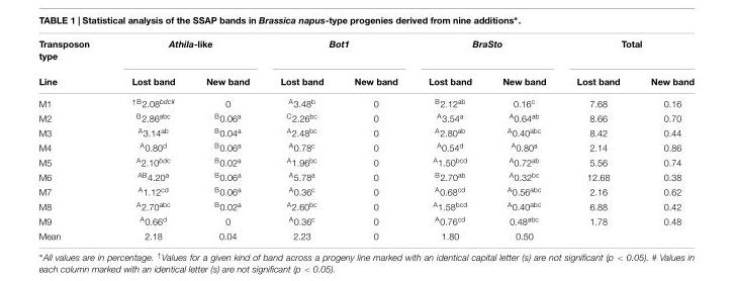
<table><thead><tr><td rowspan="2">Transposon type Line</td><td colspan="2">Athila-like</td><td colspan="2">Bot1</td><td colspan="2">BraSto</td><td colspan="2">Total</td></tr><tr><td>Lost band</td><td>New band</td><td>Lost band</td><td>New band</td><td>Lost band</td><td>New band</td><td>Lost band</td><td>New band</td></tr></thead><tbody><tr><td>M1</td><td>↑<sup>B</sup>2.08<sup>bdc#</sup></td><td>0</td><td><sup>A</sup>3.48<sup>b</sup></td><td>0</td><td><sup>B</sup>2.12<sup>ab</sup></td><td>0.16<sup>c</sup></td><td>7.68</td><td>0.16</td></tr><tr><td>M2</td><td><sup>B</sup>2.86<sup>abc</sup></td><td><sup>B</sup>0.06<sup>a</sup></td><td><sup>C</sup>2.26<sup>bc</sup></td><td>0</td><td><sup>A</sup>3.54<sup>a</sup></td><td><sup>A</sup>0.64<sup>ab</sup></td><td>8.66</td><td>0.70</td></tr><tr><td>M3</td><td><sup>A</sup>3.14<sup>ab</sup></td><td><sup>B</sup>0.04<sup>a</sup></td><td><sup>A</sup>2.48<sup>bc</sup></td><td>0</td><td><sup>A</sup>2.80<sup>ab</sup></td><td><sup>A</sup>0.40<sup>abc</sup></td><td>8.42</td><td>0.44</td></tr><tr><td>M4</td><td><sup>A</sup>0.80<sup>d</sup></td><td><sup>B</sup>0.06<sup>a</sup></td><td><sup>A</sup>0.78<sup>c</sup></td><td>0</td><td><sup>A</sup>0.54<sup>d</sup></td><td><sup>A</sup>0.80<sup>a</sup></td><td>2.14</td><td>0.86</td></tr><tr><td>M5</td><td><sup>A</sup>2.10<sup>bdc</sup></td><td><sup>B</sup>0.02<sup>a</sup></td><td><sup>A</sup>1.96<sup>bc</sup></td><td>0</td><td><sup>A</sup>1.50<sup>bcd</sup></td><td><sup>A</sup>0.72<sup>ab</sup></td><td>5.56</td><td>0.74</td></tr><tr><td>M6</td><td><sup>AB</sup>4.20<sup>a</sup></td><td><sup>B</sup>0.06<sup>a</sup></td><td><sup>A</sup>5.78<sup>a</sup></td><td>0</td><td><sup>B</sup>2.70<sup>ab</sup></td><td><sup>A</sup>0.32<sup>bc</sup></td><td>12.68</td><td>0.38</td></tr><tr><td>M7</td><td><sup>A</sup>1.12<sup>cd</sup></td><td><sup>B</sup>0.06<sup>a</sup></td><td><sup>A</sup>0.36<sup>c</sup></td><td>0</td><td><sup>A</sup>0.68<sup>cd</sup></td><td><sup>A</sup>0.56<sup>abc</sup></td><td>2.16</td><td>0.62</td></tr><tr><td>M8</td><td><sup>A</sup>2.70<sup>abc</sup></td><td><sup>B</sup>0.02<sup>a</sup></td><td><sup>A</sup>2.60<sup>bc</sup></td><td>0</td><td><sup>A</sup>1.58<sup>bcd</sup></td><td><sup>A</sup>0.40<sup>abc</sup></td><td>6.88</td><td>0.42</td></tr><tr><td>M9</td><td><sup>A</sup>0.66<sup>d</sup></td><td>0</td><td><sup>A</sup>0.36<sup>c</sup></td><td>0</td><td><sup>A</sup>0.76<sup>cd</sup></td><td>0.48<sup>abc</sup></td><td>1.78</td><td>0.48</td></tr><tr><td>Mean</td><td>2.18</td><td>0.04</td><td>2.23</td><td>0</td><td>1.80</td><td>0.50</td><td></td><td></td></tr></tbody></table>